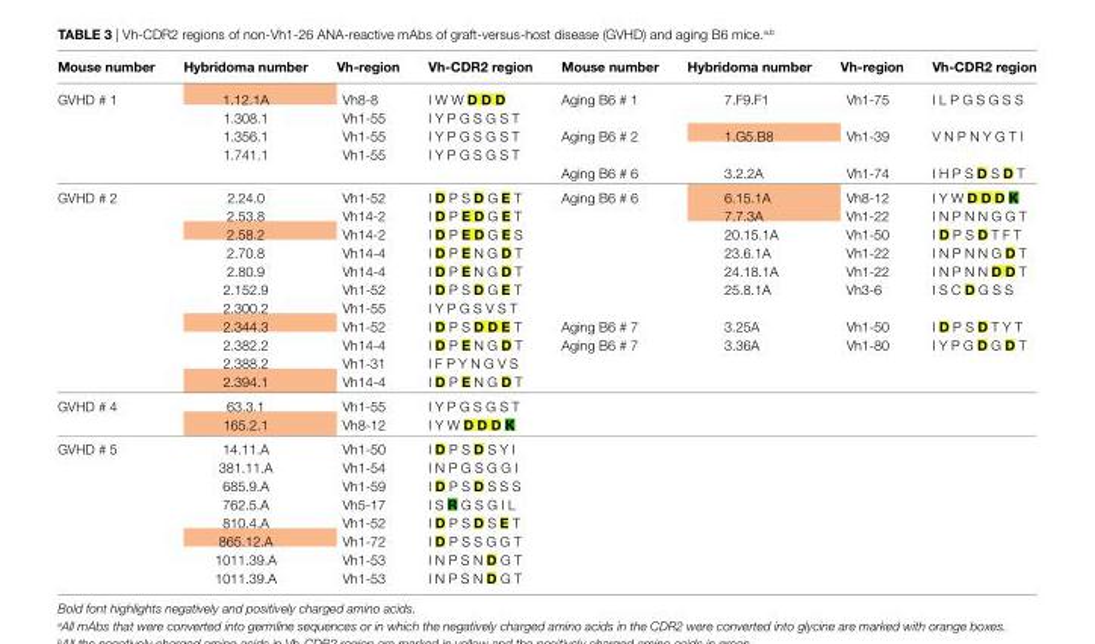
<table><thead><tr><td>Mouse number</td><td>hybridoma number</td><td>Vh-region</td><td>Vh-cDr2 region</td><td>Mouse number</td><td>hybridoma number</td><td>Vh-region</td><td>Vh-cDr2 region</td></tr></thead><tbody><tr><td rowspan="5">GVHD # 1</td><td>1.12.1A</td><td>Vh8-8</td><td>I W W D D D</td><td>Aging B6 # 1</td><td>7.F9.F1</td><td>Vh1-75</td><td>I L P G S G S S</td></tr><tr><td>1.308.1</td><td>Vh1-55</td><td>I Y P G S G S T</td><td></td><td></td><td></td><td></td></tr><tr><td>1.356.1</td><td>Vh1-55</td><td>I Y P G S G S T</td><td>Aging B6 # 2</td><td>1.G5.B8</td><td>Vh1-39</td><td>V N P N Y G T I</td></tr><tr><td>1.741.1</td><td>Vh1-55</td><td>I Y P G S G S T</td><td></td><td></td><td></td><td></td></tr><tr><td></td><td></td><td></td><td>Aging B6 # 6</td><td>3.2.2A</td><td>Vh1-74</td><td>I H P S D S D T</td></tr><tr><td rowspan="11">GVHD # 2</td><td>2.24.0</td><td>Vh1-52</td><td>I D P S D G e T</td><td rowspan="7">Aging B6 # 6</td><td>6.15.1A</td><td>Vh8-12</td><td>I Y W D D D K</td></tr><tr><td>2.53.8</td><td>Vh14-2</td><td>I D P e D G e T</td><td>7.7.3A</td><td>Vh1-22</td><td>I N P N N G G T</td></tr><tr><td>2.58.2</td><td>Vh14-2</td><td>I D P e D G e S</td><td>20.15.1A</td><td>Vh1-50</td><td>I D P S D T F T</td></tr><tr><td>2.70.8</td><td>Vh14-4</td><td>I D P e N G D T</td><td>23.6.1A</td><td>Vh1-22</td><td>I N P N N G D T</td></tr><tr><td>2.80.9</td><td>Vh14-4</td><td>I D P e N G D T</td><td>24.18.1A</td><td>Vh1-22</td><td>I N P N N D D T</td></tr><tr><td>2.152.9</td><td>Vh1-52</td><td>I D P S D G e T</td><td rowspan="2">25.8.1A</td><td rowspan="2">Vh3-6</td><td rowspan="2">I S C D G S S</td></tr><tr><td>2.300.2</td><td>Vh1-55</td><td>I Y P G S V S T</td></tr><tr><td>2.344.3</td><td>Vh1-52</td><td>I D P S D D e T</td><td>Aging B6 # 7</td><td>3.25A</td><td>Vh1-50</td><td>I D P S D T Y T</td></tr><tr><td>2.382.2</td><td>Vh14-4</td><td>I D P e N G D T</td><td rowspan="2">Aging B6 # 7</td><td rowspan="2">3.36A</td><td rowspan="2">Vh1-80</td><td rowspan="2">I Y P G D G D T</td></tr><tr><td>2.388.2</td><td>Vh1-31</td><td>I F P Y N G V S</td></tr><tr><td>2.394.1</td><td>Vh14-4</td><td>I D P e N G D T</td><td></td><td></td><td></td><td></td></tr><tr><td rowspan="2">GVHD # 4</td><td>63.3.1</td><td>Vh1-55</td><td>I Y P G S G S T</td><td></td><td></td><td></td><td></td></tr><tr><td>165.2.1</td><td>Vh8-12</td><td>I Y W D D D K</td><td></td><td></td><td></td><td></td></tr><tr><td rowspan="8">GVHD # 5</td><td>14.11.A</td><td>Vh1-50</td><td>I D P S D S Y I</td><td></td><td></td><td></td><td></td></tr><tr><td>381.11.A</td><td>Vh1-54</td><td>I N P G S G G I</td><td></td><td></td><td></td><td></td></tr><tr><td>685.9.A</td><td>Vh1-59</td><td>I D P S D S S S</td><td></td><td></td><td></td><td></td></tr><tr><td>762.5.A</td><td>Vh5-17</td><td>I S r G S G I L</td><td></td><td></td><td></td><td></td></tr><tr><td>810.4.A</td><td>Vh1-52</td><td>I D P S D S e T</td><td></td><td></td><td></td><td></td></tr><tr><td>865.12.A</td><td>Vh1-72</td><td>I D P S S G G T</td><td></td><td></td><td></td><td></td></tr><tr><td>1011.39.A</td><td>Vh1-53</td><td>I N P S N D G T</td><td></td><td></td><td></td><td></td></tr><tr><td>1011.39.A</td><td>Vh1-53</td><td>I N P S N D G T</td><td></td><td></td><td></td><td></td></tr></tbody></table>